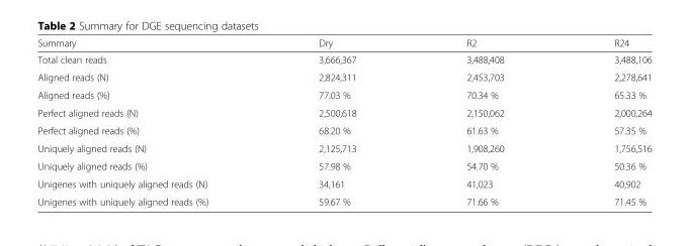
<table><thead><tr><td>Summary</td><td>Dry</td><td>R2</td><td>R24</td></tr></thead><tbody><tr><td>Total clean reads</td><td>3,666,367</td><td>3,488,408</td><td>3,488,106</td></tr><tr><td>Aligned reads (N)</td><td>2,824,311</td><td>2,453,703</td><td>2,278,641</td></tr><tr><td>Aligned reads (%)</td><td>77.03 %</td><td>70.34 %</td><td>65.33 %</td></tr><tr><td>Perfect aligned reads (N)</td><td>2,500,618</td><td>2,150,062</td><td>2,000,264</td></tr><tr><td>Perfect aligned reads (%)</td><td>68.20 %</td><td>61.63 %</td><td>57.35 %</td></tr><tr><td>Uniquely aligned reads (N)</td><td>2,125,713</td><td>1,908,260</td><td>1,756,516</td></tr><tr><td>Uniquely aligned reads (%)</td><td>57.98 %</td><td>54.70 %</td><td>50.36 %</td></tr><tr><td>Unigenes with uniquely aligned reads (N)</td><td>34,161</td><td>41,023</td><td>40,902</td></tr><tr><td>Unigenes with uniquely aligned reads (%)</td><td>59.67 %</td><td>71.66 %</td><td>71.45 %</td></tr></tbody></table>